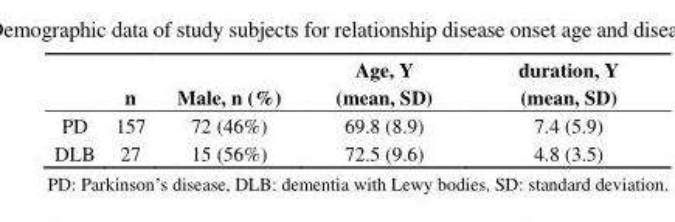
<table><thead><tr><td></td><td>n</td><td>Male, n (%)</td><td>Age, Y (mean, SD)</td><td>duration, Y (mean, SD)</td></tr></thead><tbody><tr><td>PD</td><td>157</td><td>72 (46%)</td><td>69.8 (8.9)</td><td>7.4 (5.9)</td></tr><tr><td>DLB</td><td>27</td><td>15 (56%)</td><td>72.5 (9.6)</td><td>4.8 (3.5)</td></tr></tbody></table>